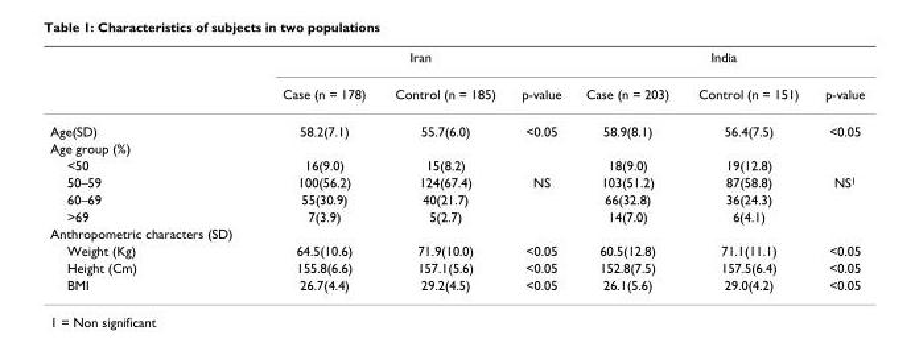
<table><thead><tr><td rowspan="2"></td><td colspan="3">Iran</td><td colspan="3">India</td></tr><tr><td>Case (n = 178)</td><td>Control (n = 185)</td><td>p-value</td><td>Case (n = 203)</td><td>Control (n = 151)</td><td>p-value</td></tr></thead><tbody><tr><td>Age(SD)</td><td>58.2(7.1)</td><td>55.7(6.0)</td><td>&lt;0.05</td><td>58.9(8.1)</td><td>56.4(7.5)</td><td>&lt;0.05</td></tr><tr><td colspan="7">Age group (%)</td></tr><tr><td>&lt;50</td><td>16(9.0)</td><td>15(8.2)</td><td></td><td>18(9.0)</td><td>19(12.8)</td><td></td></tr><tr><td>50–59</td><td>100(56.2)</td><td>124(67.4)</td><td>NS</td><td>103(51.2)</td><td>87(58.8)</td><td>NS<sup>1</sup></td></tr><tr><td>60–69</td><td>55(30.9)</td><td>40(21.7)</td><td></td><td>66(32.8)</td><td>36(24.3)</td><td></td></tr><tr><td>&gt;69</td><td>7(3.9)</td><td>5(2.7)</td><td></td><td>14(7.0)</td><td>6(4.1)</td><td></td></tr><tr><td colspan="7">Anthropometric characters (SD)</td></tr><tr><td>Weight (Kg)</td><td>64.5(10.6)</td><td>71.9(10.0)</td><td>&lt;0.05</td><td>60.5(12.8)</td><td>71.1(11.1)</td><td>&lt;0.05</td></tr><tr><td>Height (Cm)</td><td>155.8(6.6)</td><td>157.1(5.6)</td><td>&lt;0.05</td><td>152.8(7.5)</td><td>157.5(6.4)</td><td>&lt;0.05</td></tr><tr><td>BMI</td><td>26.7(4.4)</td><td>29.2(4.5)</td><td>&lt;0.05</td><td>26.1(5.6)</td><td>29.0(4.2)</td><td>&lt;0.05</td></tr></tbody></table>